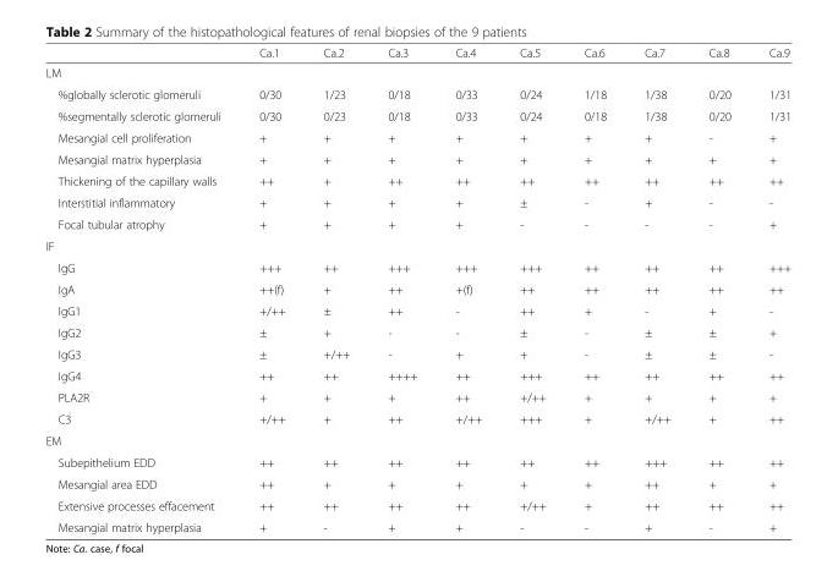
<table><thead><tr><td></td><td>Ca.1</td><td>Ca.2</td><td>Ca.3</td><td>Ca.4</td><td>Ca.5</td><td>Ca.6</td><td>Ca.7</td><td>Ca.8</td><td>Ca.9</td></tr></thead><tbody><tr><td colspan="10">LM</td></tr><tr><td>%globally sclerotic glomeruli</td><td>0/30</td><td>1/23</td><td>0/18</td><td>0/33</td><td>0/24</td><td>1/18</td><td>1/38</td><td>0/20</td><td>1/31</td></tr><tr><td>%segmentally sclerotic glomeruli</td><td>0/30</td><td>0/23</td><td>0/18</td><td>0/33</td><td>0/24</td><td>0/18</td><td>1/38</td><td>0/20</td><td>1/31</td></tr><tr><td>Mesangial cell proliferation</td><td>+</td><td>+</td><td>+</td><td>+</td><td>+</td><td>+</td><td>+</td><td>-</td><td>+</td></tr><tr><td>Mesangial matrix hyperplasia</td><td>+</td><td>+</td><td>+</td><td>+</td><td>+</td><td>+</td><td>+</td><td>+</td><td>+</td></tr><tr><td>Thickening of the capillary walls</td><td>++</td><td>+</td><td>++</td><td>++</td><td>++</td><td>++</td><td>++</td><td>++</td><td>++</td></tr><tr><td>Interstitial inflammatory</td><td>+</td><td>+</td><td>+</td><td>+</td><td>±</td><td>-</td><td>+</td><td>-</td><td>-</td></tr><tr><td>Focal tubular atrophy</td><td>+</td><td>+</td><td>+</td><td>+</td><td>-</td><td>-</td><td>-</td><td>-</td><td>+</td></tr><tr><td colspan="10">IF</td></tr><tr><td>IgG</td><td>+++</td><td>++</td><td>+++</td><td>+++</td><td>+++</td><td>++</td><td>++</td><td>++</td><td>+++</td></tr><tr><td>IgA</td><td>++(f)</td><td>+</td><td>++</td><td>+(f)</td><td>++</td><td>++</td><td>++</td><td>++</td><td>++</td></tr><tr><td>IgG1</td><td>+/++</td><td>±</td><td>++</td><td>-</td><td>++</td><td>+</td><td>-</td><td>+</td><td>-</td></tr><tr><td>IgG2</td><td>±</td><td>+</td><td>-</td><td>-</td><td>±</td><td>-</td><td>±</td><td>±</td><td>+</td></tr><tr><td>IgG3</td><td>±</td><td>+/++</td><td>-</td><td>+</td><td>+</td><td>-</td><td>±</td><td>±</td><td>-</td></tr><tr><td>IgG4</td><td>++</td><td>++</td><td>++++</td><td>++</td><td>+++</td><td>++</td><td>++</td><td>++</td><td>++</td></tr><tr><td>PLA2R</td><td>+</td><td>+</td><td>+</td><td>++</td><td>+/++</td><td>+</td><td>+</td><td>+</td><td>+</td></tr><tr><td>C3</td><td>+/++</td><td>+</td><td>++</td><td>+/++</td><td>+++</td><td>+</td><td>+/++</td><td>+</td><td>++</td></tr><tr><td colspan="10">EM</td></tr><tr><td>Subepithelium EDD</td><td>++</td><td>++</td><td>++</td><td>++</td><td>++</td><td>++</td><td>+++</td><td>++</td><td>++</td></tr><tr><td>Mesangial area EDD</td><td>++</td><td>+</td><td>+</td><td>+</td><td>+</td><td>+</td><td>++</td><td>+</td><td>+</td></tr><tr><td>Extensive processes effacement</td><td>++</td><td>++</td><td>++</td><td>++</td><td>+/++</td><td>+</td><td>++</td><td>++</td><td>++</td></tr><tr><td>Mesangial matrix hyperplasia</td><td>+</td><td>-</td><td>+</td><td>+</td><td>-</td><td>-</td><td>+</td><td>-</td><td>+</td></tr></tbody></table>